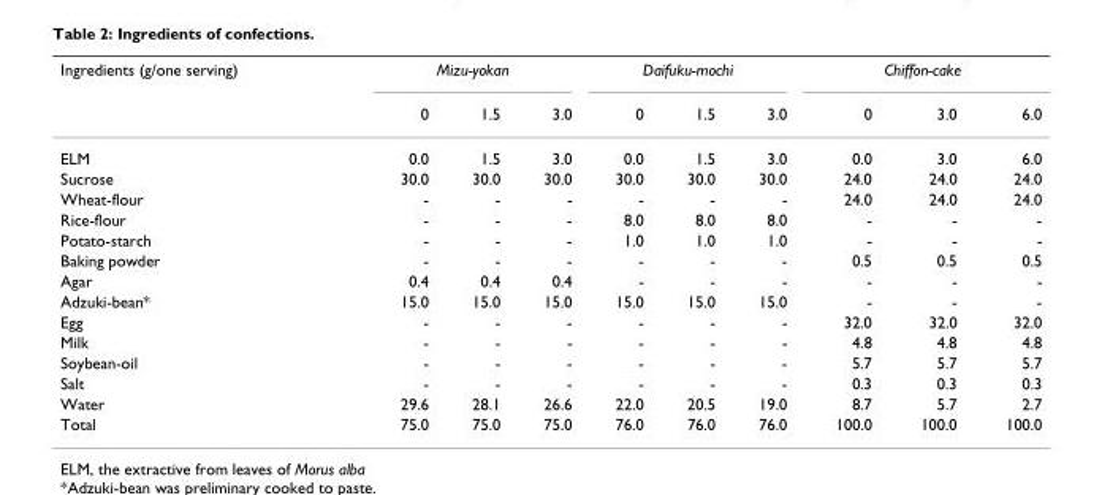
<table><thead><tr><td rowspan="2">Ingredients (g/one serving)</td><td colspan="3">Mizu-yokan</td><td colspan="3">Daifuku-mochi</td><td colspan="3">Chiffon-cake</td></tr><tr><td>0</td><td>1.5</td><td>3.0</td><td>0</td><td>1.5</td><td>3.0</td><td>0</td><td>3.0</td><td>6.0</td></tr></thead><tbody><tr><td>ELM</td><td>0.0</td><td>1.5</td><td>3.0</td><td>0.0</td><td>1.5</td><td>3.0</td><td>0.0</td><td>3.0</td><td>6.0</td></tr><tr><td>Sucrose</td><td>30.0</td><td>30.0</td><td>30.0</td><td>30.0</td><td>30.0</td><td>30.0</td><td>24.0</td><td>24.0</td><td>24.0</td></tr><tr><td>Wheat-flour</td><td>-</td><td>-</td><td>-</td><td>-</td><td>-</td><td>-</td><td>24.0</td><td>24.0</td><td>24.0</td></tr><tr><td>Rice-flour</td><td>-</td><td>-</td><td>-</td><td>8.0</td><td>8.0</td><td>8.0</td><td>-</td><td>-</td><td>-</td></tr><tr><td>Potato-starch</td><td>-</td><td>-</td><td>-</td><td>1.0</td><td>1.0</td><td>1.0</td><td>-</td><td>-</td><td>-</td></tr><tr><td>Baking powder</td><td>-</td><td>-</td><td>-</td><td>-</td><td>-</td><td>-</td><td>0.5</td><td>0.5</td><td>0.5</td></tr><tr><td>Agar</td><td>0.4</td><td>0.4</td><td>0.4</td><td>-</td><td>-</td><td>-</td><td>-</td><td>-</td><td>-</td></tr><tr><td>Adzuki-bean*</td><td>15.0</td><td>15.0</td><td>15.0</td><td>15.0</td><td>15.0</td><td>15.0</td><td>-</td><td>-</td><td>-</td></tr><tr><td>Egg</td><td>-</td><td>-</td><td>-</td><td>-</td><td>-</td><td>-</td><td>32.0</td><td>32.0</td><td>32.0</td></tr><tr><td>Milk</td><td>-</td><td>-</td><td>-</td><td>-</td><td>-</td><td>-</td><td>4.8</td><td>4.8</td><td>4.8</td></tr><tr><td>Soybean-oil</td><td>-</td><td>-</td><td>-</td><td>-</td><td>-</td><td>-</td><td>5.7</td><td>5.7</td><td>5.7</td></tr><tr><td>Salt</td><td>-</td><td>-</td><td>-</td><td>-</td><td>-</td><td>-</td><td>0.3</td><td>0.3</td><td>0.3</td></tr><tr><td>Water</td><td>29.6</td><td>28.1</td><td>26.6</td><td>22.0</td><td>20.5</td><td>19.0</td><td>8.7</td><td>5.7</td><td>2.7</td></tr><tr><td>Total</td><td>75.0</td><td>75.0</td><td>75.0</td><td>76.0</td><td>76.0</td><td>76.0</td><td>100.0</td><td>100.0</td><td>100.0</td></tr></tbody></table>